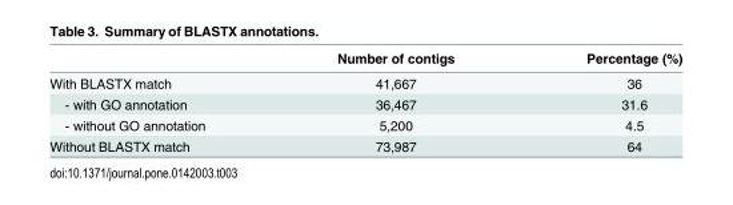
<table><thead><tr><td></td><td>Number of contigs</td><td>Percentage (%)</td></tr></thead><tbody><tr><td>With BLASTX match</td><td>41,667</td><td>36</td></tr><tr><td>- with GO annotation</td><td>36,467</td><td>31.6</td></tr><tr><td>- without GO annotation</td><td>5,200</td><td>4.5</td></tr><tr><td>Without BLASTX match</td><td>73,987</td><td>64</td></tr></tbody></table>